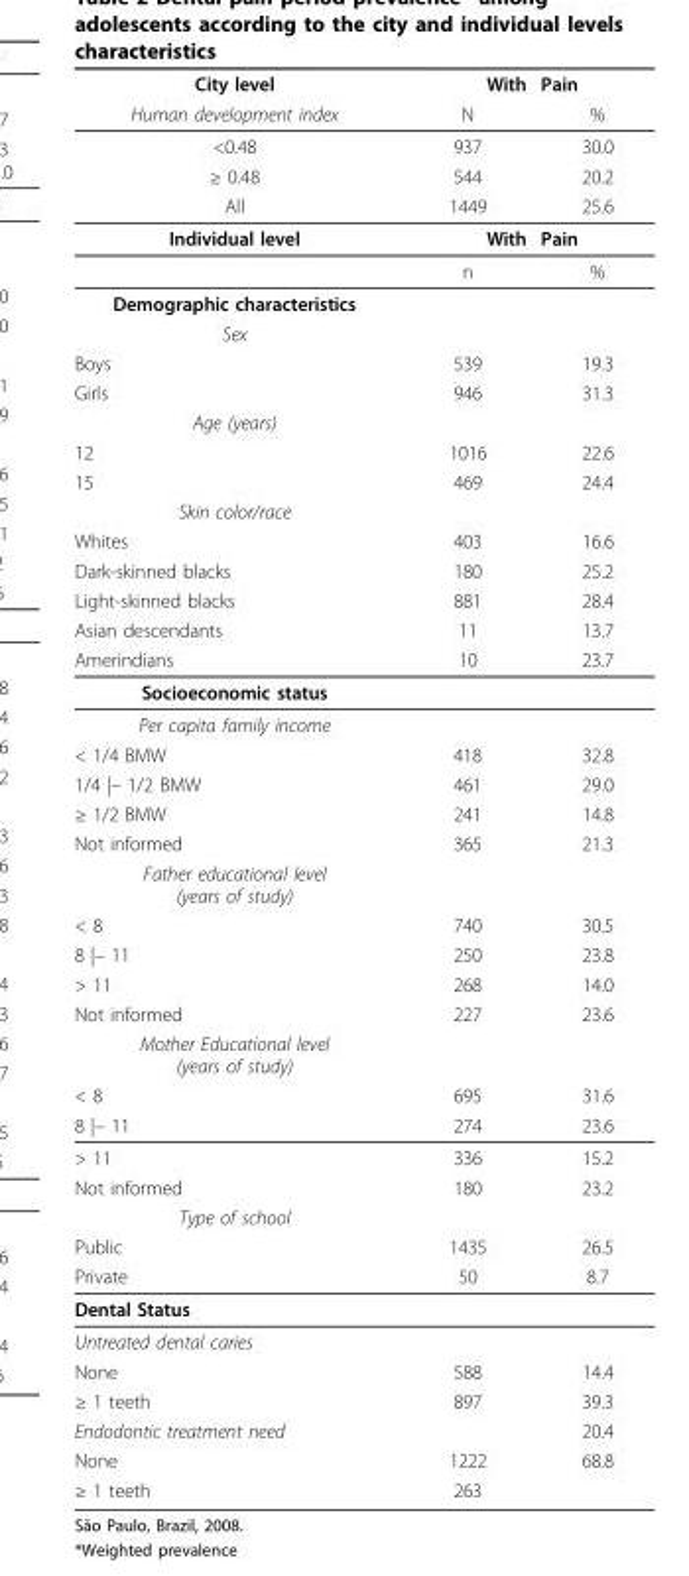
<table><thead><tr><td rowspan="2">City level Human development index</td><td rowspan="2">With N</td><td rowspan="2">Pain %</td></tr><tr></tr></thead><tbody><tr><td>&lt;0.48</td><td>937</td><td>30.0</td></tr><tr><td>≥ 0.48</td><td>544</td><td>20.2</td></tr><tr><td>All</td><td>1449</td><td>25.6</td></tr><tr><td rowspan="2">Individual level</td><td>With</td><td>Pain</td></tr><tr><td>n</td><td>%</td></tr><tr><td colspan="3">Demographic characteristics</td></tr><tr><td colspan="3">Sex</td></tr><tr><td>Boys</td><td>539</td><td>19.3</td></tr><tr><td>Girls</td><td>946</td><td>31.3</td></tr><tr><td colspan="3">Age (years)</td></tr><tr><td>12</td><td>1016</td><td>22.6</td></tr><tr><td>15</td><td>469</td><td>24.4</td></tr><tr><td colspan="3">Skin color/race</td></tr><tr><td>Whites</td><td>403</td><td>16.6</td></tr><tr><td>Dark-skinned blacks</td><td>180</td><td>25.2</td></tr><tr><td>Light-skinned blacks</td><td>881</td><td>28.4</td></tr><tr><td>Asian descendants</td><td>11</td><td>13.7</td></tr><tr><td>Amerindians</td><td>10</td><td>23.7</td></tr><tr><td colspan="3">Socioeconomic status</td></tr><tr><td colspan="3">Per capita family income</td></tr><tr><td>&lt; 1/4 BMW</td><td>418</td><td>32.8</td></tr><tr><td>1/4 |– 1/2 BMW</td><td>461</td><td>29.0</td></tr><tr><td>≥ 1/2 BMW</td><td>241</td><td>14.8</td></tr><tr><td>Not informed</td><td>365</td><td>21.3</td></tr><tr><td colspan="3">Father educational level (years of study)</td></tr><tr><td>&lt; 8</td><td>740</td><td>30.5</td></tr><tr><td>8 |– 11</td><td>250</td><td>23.8</td></tr><tr><td>&gt; 11</td><td>268</td><td>14.0</td></tr><tr><td>Not informed</td><td>227</td><td>23.6</td></tr><tr><td colspan="3">Mother Educational level (years of study)</td></tr><tr><td>&lt; 8</td><td>695</td><td>31.6</td></tr><tr><td>8 |– 11</td><td>274</td><td>23.6</td></tr><tr><td>&gt; 11</td><td>336</td><td>15.2</td></tr><tr><td>Not informed</td><td>180</td><td>23.2</td></tr><tr><td colspan="3">Type of school</td></tr><tr><td>Public</td><td>1435</td><td>26.5</td></tr><tr><td>Private</td><td>50</td><td>8.7</td></tr><tr><td colspan="3">Dental Status</td></tr><tr><td colspan="3">Untreated dental caries</td></tr><tr><td>None</td><td>588</td><td>14.4</td></tr><tr><td>≥ 1 teeth</td><td>897</td><td>39.3</td></tr><tr><td>Endodontic treatment need</td><td></td><td>20.4</td></tr><tr><td>None</td><td>1222</td><td>68.8</td></tr><tr><td>≥ 1 teeth</td><td>263</td><td></td></tr></tbody></table>